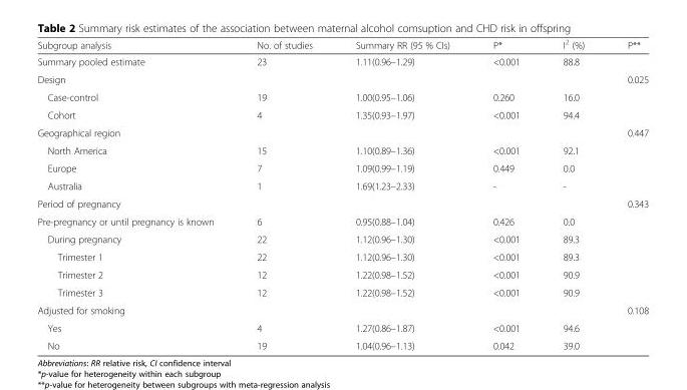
<table><thead><tr><td>Subgroup analysis</td><td>No. of studies</td><td>Summary RR (95 % CIs)</td><td>P*</td><td>I<sup>2</sup> (%)</td><td>P**</td></tr></thead><tbody><tr><td>Summary pooled estimate</td><td>23</td><td>1.11(0.96–1.29)</td><td>&lt;0.001</td><td>88.8</td><td></td></tr><tr><td>Design</td><td></td><td></td><td></td><td></td><td>0.025</td></tr><tr><td>Case-control</td><td>19</td><td>1.00(0.95–1.06)</td><td>0.260</td><td>16.0</td><td></td></tr><tr><td>Cohort</td><td>4</td><td>1.35(0.93–1.97)</td><td>&lt;0.001</td><td>94.4</td><td></td></tr><tr><td>Geographical region</td><td></td><td></td><td></td><td></td><td>0.447</td></tr><tr><td>North America</td><td>15</td><td>1.10(0.89–1.36)</td><td>&lt;0.001</td><td>92.1</td><td></td></tr><tr><td>Europe</td><td>7</td><td>1.09(0.99–1.19)</td><td>0.449</td><td>0.0</td><td></td></tr><tr><td>Australia</td><td>1</td><td>1.69(1.23–2.33)</td><td>-</td><td>-</td><td></td></tr><tr><td>Period of pregnancy</td><td></td><td></td><td></td><td></td><td>0.343</td></tr><tr><td>Pre-pregnancy or until pregnancy is known</td><td>6</td><td>0.95(0.88–1.04)</td><td>0.426</td><td>0.0</td><td></td></tr><tr><td>During pregnancy</td><td>22</td><td>1.12(0.96–1.30)</td><td>&lt;0.001</td><td>89.3</td><td rowspan="4"></td></tr><tr><td>Trimester 1</td><td>22</td><td>1.12(0.96–1.30)</td><td>&lt;0.001</td><td>89.3</td></tr><tr><td>Trimester 2</td><td>12</td><td>1.22(0.98–1.52)</td><td>&lt;0.001</td><td>90.9</td></tr><tr><td>Trimester 3</td><td>12</td><td>1.22(0.98–1.52)</td><td>&lt;0.001</td><td>90.9</td></tr><tr><td>Adjusted for smoking</td><td></td><td></td><td></td><td></td><td>0.108</td></tr><tr><td>Yes</td><td>4</td><td>1.27(0.86–1.87)</td><td>&lt;0.001</td><td>94.6</td><td></td></tr><tr><td>No</td><td>19</td><td>1.04(0.96–1.13)</td><td>0.042</td><td>39.0</td><td></td></tr></tbody></table>